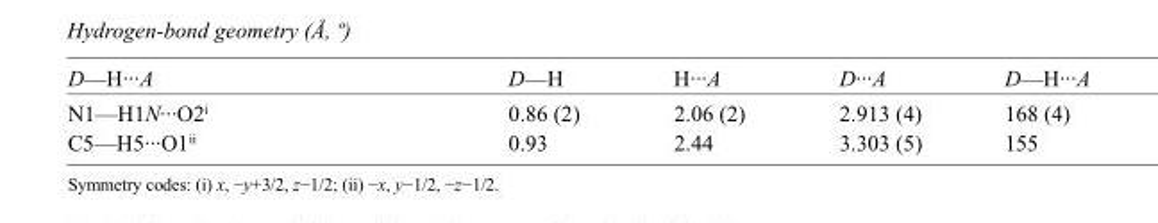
<table><tbody><tr><td>D—H···A</td><td>D—H</td><td>H···A</td><td>D···A</td><td>D—H···A</td></tr><tr><td>N1—H1N···O2<sup>i</sup></td><td>0.86 (2)</td><td>2.06 (2)</td><td>2.913 (4)</td><td>168 (4)</td></tr><tr><td>C5—H5···O1<sup>ii</sup></td><td>0.93</td><td>2.44</td><td>3.303 (5)</td><td>155</td></tr></tbody></table>